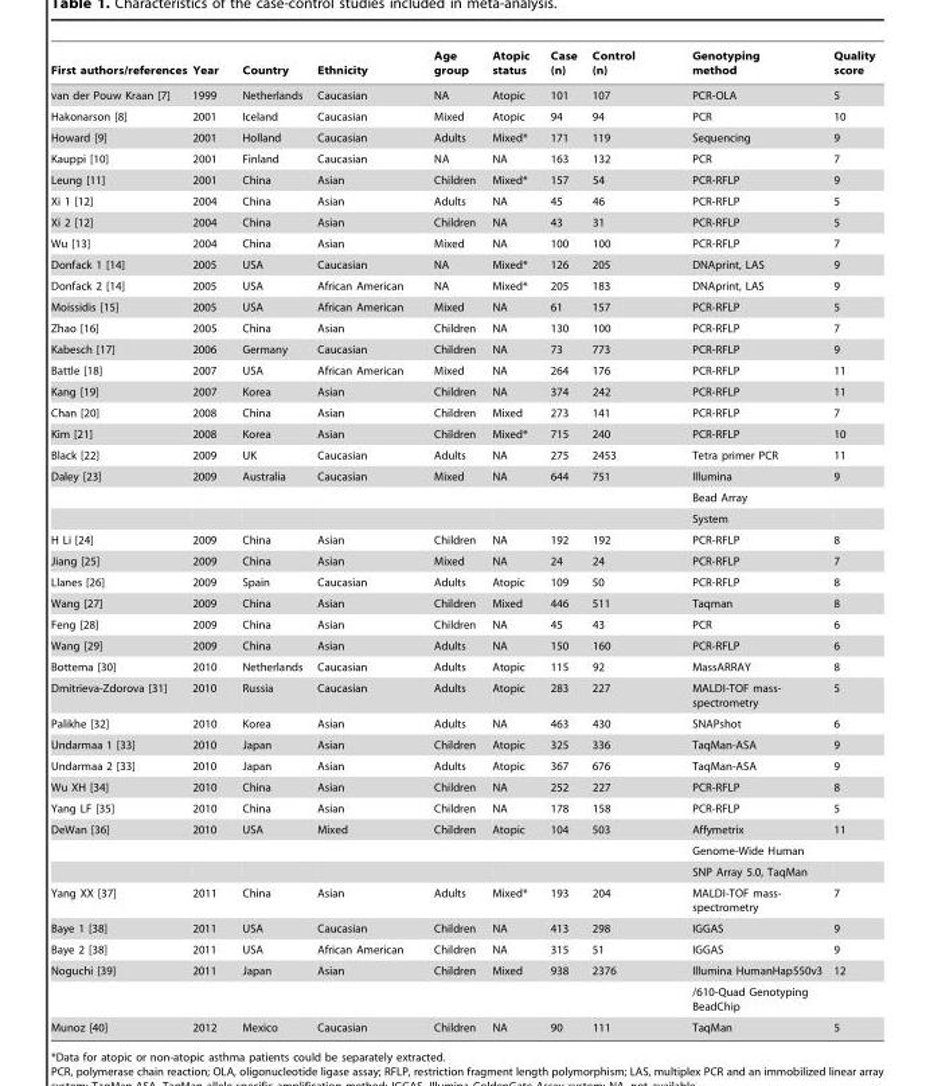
<table><thead><tr><td>First authors/references</td><td>Year</td><td>Country</td><td>Ethnicity</td><td>Age group</td><td>Atopic status</td><td>Case (n)</td><td>Control (n)</td><td>Genotyping method</td><td>Quality score</td></tr></thead><tbody><tr><td>van der Pouw Kraan [7]</td><td>1999</td><td>Netherlands</td><td>Caucasian</td><td>NA</td><td>Atopic</td><td>101</td><td>107</td><td>PCR-OLA</td><td>5</td></tr><tr><td>Hakonarson [8]</td><td>2001</td><td>Iceland</td><td>Caucasian</td><td>Mixed</td><td>Atopic</td><td>94</td><td>94</td><td>PCR</td><td>10</td></tr><tr><td>Howard [9]</td><td>2001</td><td>Holland</td><td>Caucasian</td><td>Adults</td><td>Mixed*</td><td>171</td><td>119</td><td>Sequencing</td><td>9</td></tr><tr><td>Kauppi [10]</td><td>2001</td><td>Finland</td><td>Caucasian</td><td>NA</td><td>NA</td><td>163</td><td>132</td><td>PCR</td><td>7</td></tr><tr><td>Leung [11]</td><td>2001</td><td>China</td><td>Asian</td><td>Children</td><td>Mixed*</td><td>157</td><td>54</td><td>PCR-RFLP</td><td>9</td></tr><tr><td>Xi 1 [12]</td><td>2004</td><td>China</td><td>Asian</td><td>Adults</td><td>NA</td><td>45</td><td>46</td><td>PCR-RFLP</td><td>5</td></tr><tr><td>Xi 2 [12]</td><td>2004</td><td>China</td><td>Asian</td><td>Children</td><td>NA</td><td>43</td><td>31</td><td>PCR-RFLP</td><td>5</td></tr><tr><td>Wu [13]</td><td>2004</td><td>China</td><td>Asian</td><td>Mixed</td><td>NA</td><td>100</td><td>100</td><td>PCR-RFLP</td><td>7</td></tr><tr><td>Donfack 1 [14]</td><td>2005</td><td>USA</td><td>Caucasian</td><td>NA</td><td>Mixed*</td><td>126</td><td>205</td><td>DNAprint, LAS</td><td>9</td></tr><tr><td>Donfack 2 [14]</td><td>2005</td><td>USA</td><td>African American</td><td>NA</td><td>Mixed*</td><td>205</td><td>183</td><td>DNAprint, LAS</td><td>9</td></tr><tr><td>Moissidis [15]</td><td>2005</td><td>USA</td><td>African American</td><td>Mixed</td><td>NA</td><td>61</td><td>157</td><td>PCR-RFLP</td><td>5</td></tr><tr><td>Zhao [16]</td><td>2005</td><td>China</td><td>Asian</td><td>Children</td><td>NA</td><td>130</td><td>100</td><td>PCR-RFLP</td><td>7</td></tr><tr><td>Kabesch [17]</td><td>2006</td><td>Germany</td><td>Caucasian</td><td>Children</td><td>NA</td><td>73</td><td>773</td><td>PCR-RFLP</td><td>9</td></tr><tr><td>Battle [18]</td><td>2007</td><td>USA</td><td>African American</td><td>Mixed</td><td>NA</td><td>264</td><td>176</td><td>PCR-RFLP</td><td>11</td></tr><tr><td>Kang [19]</td><td>2007</td><td>Korea</td><td>Asian</td><td>Children</td><td>NA</td><td>374</td><td>242</td><td>PCR-RFLP</td><td>11</td></tr><tr><td>Chan [20]</td><td>2008</td><td>China</td><td>Asian</td><td>Children</td><td>Mixed</td><td>273</td><td>141</td><td>PCR-RFLP</td><td>7</td></tr><tr><td>Kim [21]</td><td>2008</td><td>Korea</td><td>Asian</td><td>Children</td><td>Mixed*</td><td>715</td><td>240</td><td>PCR-RFLP</td><td>10</td></tr><tr><td>Black [22]</td><td>2009</td><td>UK</td><td>Caucasian</td><td>Adults</td><td>NA</td><td>275</td><td>2453</td><td>Tetra primer PCR</td><td>11</td></tr><tr><td rowspan="3">Daley [23]</td><td>2009</td><td>Australia</td><td>Caucasian</td><td>Mixed</td><td>NA</td><td>644</td><td>751</td><td>Illumina</td><td>9</td></tr><tr><td></td><td></td><td></td><td></td><td></td><td></td><td></td><td>Bead Array</td><td></td></tr><tr><td></td><td></td><td></td><td></td><td></td><td></td><td></td><td>System</td><td></td></tr><tr><td>H Li [24]</td><td>2009</td><td>China</td><td>Asian</td><td>Children</td><td>NA</td><td>192</td><td>192</td><td>PCR-RFLP</td><td>8</td></tr><tr><td>Jiang [25]</td><td>2009</td><td>China</td><td>Asian</td><td>Mixed</td><td>NA</td><td>24</td><td>24</td><td>PCR-RFLP</td><td>7</td></tr><tr><td>Llanes [26]</td><td>2009</td><td>Spain</td><td>Caucasian</td><td>Adults</td><td>Atopic</td><td>109</td><td>50</td><td>PCR-RFLP</td><td>8</td></tr><tr><td>Wang [27]</td><td>2009</td><td>China</td><td>Asian</td><td>Children</td><td>Mixed</td><td>446</td><td>511</td><td>Taqman</td><td>8</td></tr><tr><td>Feng [28]</td><td>2009</td><td>China</td><td>Asian</td><td>Children</td><td>NA</td><td>45</td><td>43</td><td>PCR</td><td>6</td></tr><tr><td>Wang [29]</td><td>2009</td><td>China</td><td>Asian</td><td>Adults</td><td>NA</td><td>150</td><td>160</td><td>PCR-RFLP</td><td>6</td></tr><tr><td>Bottema [30]</td><td>2010</td><td>Netherlands</td><td>Caucasian</td><td>Adults</td><td>Atopic</td><td>115</td><td>92</td><td>MassARRAY</td><td>8</td></tr><tr><td>Dmitrieva-Zdorova [31]</td><td>2010</td><td>Russia</td><td>Caucasian</td><td>Adults</td><td>Atopic</td><td>283</td><td>227</td><td>MALDI-TOF mass- spectrometry</td><td>5</td></tr><tr><td>Palikhe [32]</td><td>2010</td><td>Korea</td><td>Asian</td><td>Adults</td><td>NA</td><td>463</td><td>430</td><td>SNAPshot</td><td>6</td></tr><tr><td>Undarmaa 1 [33]</td><td>2010</td><td>Japan</td><td>Asian</td><td>Children</td><td>Atopic</td><td>325</td><td>336</td><td>TaqMan-ASA</td><td>9</td></tr><tr><td>Undarmaa 2 [33]</td><td>2010</td><td>Japan</td><td>Asian</td><td>Adults</td><td>Atopic</td><td>367</td><td>676</td><td>TaqMan-ASA</td><td>9</td></tr><tr><td>Wu XH [34]</td><td>2010</td><td>China</td><td>Asian</td><td>Children</td><td>NA</td><td>252</td><td>227</td><td>PCR-RFLP</td><td>8</td></tr><tr><td>Yang LF [35]</td><td>2010</td><td>China</td><td>Asian</td><td>Children</td><td>NA</td><td>178</td><td>158</td><td>PCR-RFLP</td><td>5</td></tr><tr><td rowspan="3">DeWan [36]</td><td>2010</td><td>USA</td><td>Mixed</td><td>Children</td><td>Atopic</td><td>104</td><td>503</td><td>Affymetrix</td><td>11</td></tr><tr><td></td><td></td><td></td><td></td><td></td><td></td><td></td><td>Genome-Wide Human</td><td></td></tr><tr><td></td><td></td><td></td><td></td><td></td><td></td><td></td><td>SNP Array 5.0, TaqMan</td><td></td></tr><tr><td>Yang XX [37]</td><td>2011</td><td>China</td><td>Asian</td><td>Adults</td><td>Mixed*</td><td>193</td><td>204</td><td>MALDI-TOF mass- spectrometry</td><td>7</td></tr><tr><td>Baye 1 [38]</td><td>2011</td><td>USA</td><td>Caucasian</td><td>Children</td><td>NA</td><td>413</td><td>298</td><td>IGGAS</td><td>9</td></tr><tr><td>Baye 2 [38]</td><td>2011</td><td>USA</td><td>African American</td><td>Children</td><td>NA</td><td>315</td><td>51</td><td>IGGAS</td><td>9</td></tr><tr><td rowspan="2">Noguchi [39]</td><td>2011</td><td>Japan</td><td>Asian</td><td>Children</td><td>Mixed</td><td>938</td><td>2376</td><td>Illumina HumanHap550v3</td><td>12</td></tr><tr><td></td><td></td><td></td><td></td><td></td><td></td><td></td><td>/610-Quad Genotyping BeadChip</td><td></td></tr><tr><td>Munoz [40]</td><td>2012</td><td>Mexico</td><td>Caucasian</td><td>Children</td><td>NA</td><td>90</td><td>111</td><td>TaqMan</td><td>5</td></tr></tbody></table>